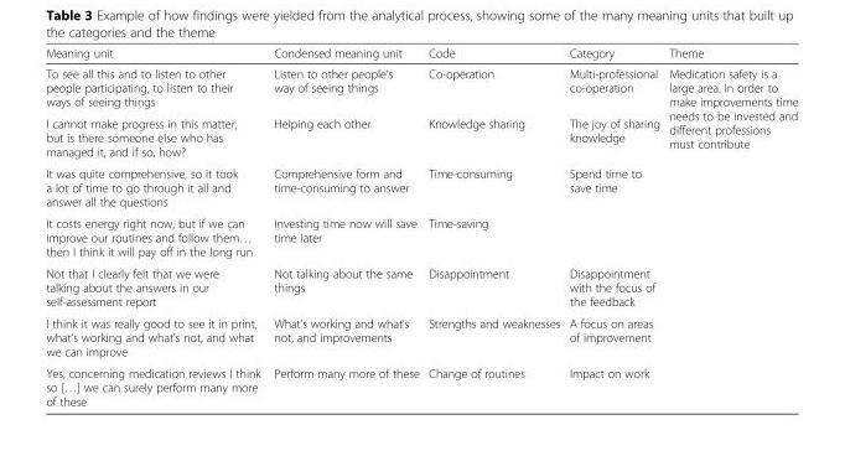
<table><thead><tr><td>Meaning unit</td><td>Condensed meaning unit</td><td>Code</td><td>Category</td><td>Theme</td></tr></thead><tbody><tr><td>To see all this and to listen to other people participating, to listen to their ways of seeing things</td><td>Listen to other people’s way of seeing things</td><td>Co-operation</td><td>Multi-professional co-operation</td><td rowspan="7">Medication safety is a large area. In order to make improvements time needs to be invested and different professions must contribute</td></tr><tr><td>I cannot make progress in this matter, but is there someone else who has managed it, and if so, how?</td><td>Helping each other</td><td>Knowledge sharing</td><td>The joy of sharing knowledge</td></tr><tr><td>It was quite comprehensive, so it took a lot of time to go through it all and answer all the questions</td><td>Comprehensive form and time-consuming to answer</td><td>Time-consuming</td><td rowspan="2">Spend time to save time</td></tr><tr><td>It costs energy right now, but if we can improve our routines and follow them… then I think it will pay off in the long run</td><td>Investing time now will save time later</td><td>Time-saving</td></tr><tr><td>Not that I clearly felt that we were talking about the answers in our self-assessment report</td><td>Not talking about the same things</td><td>Disappointment</td><td>Disappointment with the focus of the feedback</td></tr><tr><td>I think it was really good to see it in print, what’s working and what’s not, and what we can improve</td><td>What’s working and what’s not, and improvements</td><td>Strengths and weaknesses</td><td>A focus on areas of improvement</td></tr><tr><td>Yes, concerning medication reviews I think so […] we can surely perform many more of these</td><td>Perform many more of these</td><td>Change of routines</td><td>Impact on work</td></tr></tbody></table>